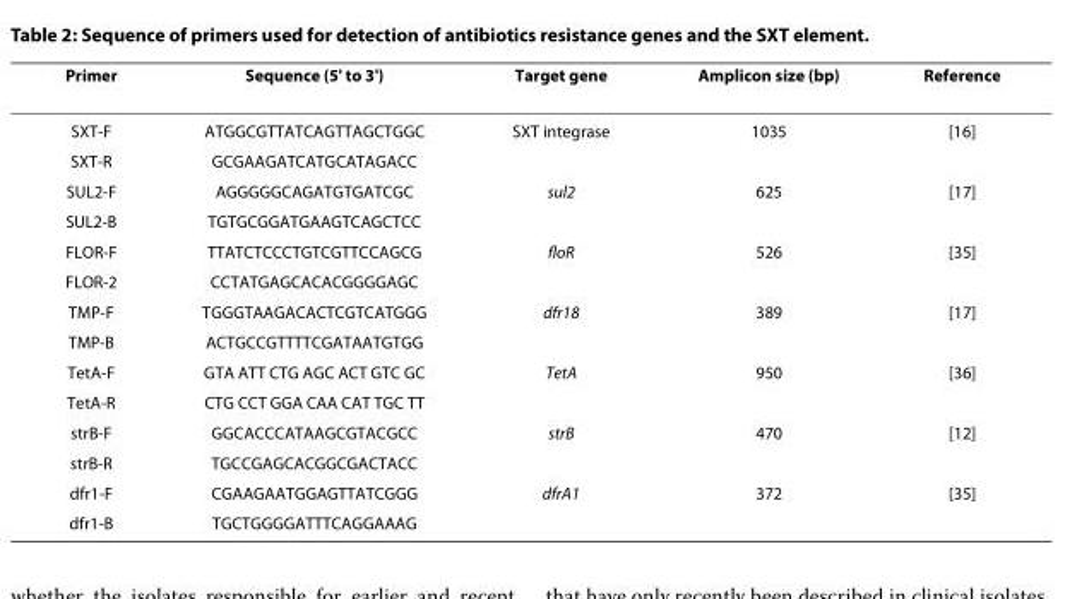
<table><thead><tr><td>Primer</td><td>Sequence (5&#x27; to 3&#x27;)</td><td>Target gene</td><td>Amplicon size (bp)</td><td>Reference</td></tr></thead><tbody><tr><td>SXT-F</td><td>ATGGCGTTATCAGTTAGCTGGC</td><td>SXT integrase</td><td>1035</td><td>[16]</td></tr><tr><td>SXT-R</td><td>GCGAAGATCATGCATAGACC</td><td></td><td></td><td></td></tr><tr><td>SUL2-F</td><td>AGGGGGCAGATGTGATCGC</td><td>sul2</td><td>625</td><td>[17]</td></tr><tr><td>SUL2-B</td><td>TGTGCGGATGAAGTCAGCTCC</td><td></td><td></td><td></td></tr><tr><td>FLOR-F</td><td>TTATCTCCCTGTCGTTCCAGCG</td><td>floR</td><td>526</td><td>[35]</td></tr><tr><td>FLOR-2</td><td>CCTATGAGCACACGGGGAGC</td><td></td><td></td><td></td></tr><tr><td>TMP-F</td><td>TGGGTAAGACACTCGTCATGGG</td><td>dfr18</td><td>389</td><td>[17]</td></tr><tr><td>TMP-B</td><td>ACTGCCGTTTTCGATAATGTGG</td><td></td><td></td><td></td></tr><tr><td>TetA-F</td><td>GTA ATT CTG AGC ACT GTC GC</td><td>TetA</td><td>950</td><td>[36]</td></tr><tr><td>TetA-R</td><td>CTG CCT GGA CAA CAT TGC TT</td><td></td><td></td><td></td></tr><tr><td>strB-F</td><td>GGCACCCATAAGCGTACGCC</td><td>strB</td><td>470</td><td>[12]</td></tr><tr><td>strB-R</td><td>TGCCGAGCACGGCGACTACC</td><td></td><td></td><td></td></tr><tr><td>dfr1-F</td><td>CGAAGAATGGAGTTATCGGG</td><td>dfrA1</td><td>372</td><td>[35]</td></tr><tr><td>dfr1-B</td><td>TGCTGGGGATTTCAGGAAAG</td><td></td><td></td><td></td></tr></tbody></table>